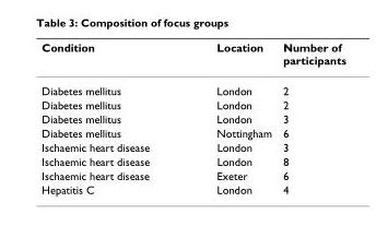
<table><thead><tr><td>Condition</td><td>Location</td><td>Number of participants</td></tr></thead><tbody><tr><td>Diabetes mellitus</td><td>London</td><td>2</td></tr><tr><td>Diabetes mellitus</td><td>London</td><td>2</td></tr><tr><td>Diabetes mellitus</td><td>London</td><td>3</td></tr><tr><td>Diabetes mellitus</td><td>Nottingham</td><td>6</td></tr><tr><td>Ischaemic heart disease</td><td>London</td><td>3</td></tr><tr><td>Ischaemic heart disease</td><td>London</td><td>8</td></tr><tr><td>Ischaemic heart disease</td><td>Exeter</td><td>6</td></tr><tr><td>Hepatitis C</td><td>London</td><td>4</td></tr></tbody></table>